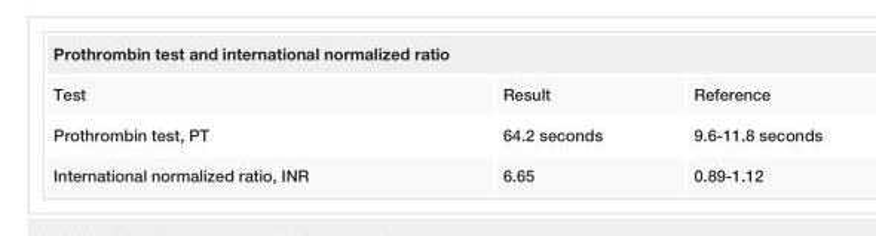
<table><tbody><tr><td colspan="3">Prothrombin test and international normalized ratio</td></tr><tr><td>Test</td><td>Result</td><td>Reference</td></tr><tr><td>Prothrombin test, PT</td><td>64.2 seconds</td><td>9.6-11.8 seconds</td></tr><tr><td>International normalized ratio, INR</td><td>6.65</td><td>0.89-1.12</td></tr></tbody></table>